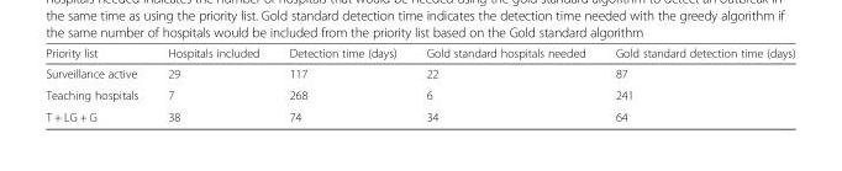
<table><thead><tr><td>Priority list</td><td>Hospitals included</td><td>Detection time (days)</td><td>Gold standard hospitals needed</td><td>Gold standard detection time (days)</td></tr></thead><tbody><tr><td>Surveillance active</td><td>29</td><td>117</td><td>22</td><td>87</td></tr><tr><td>Teaching hospitals</td><td>7</td><td>268</td><td>6</td><td>241</td></tr><tr><td>T + LG + G</td><td>38</td><td>74</td><td>34</td><td>64</td></tr></tbody></table>